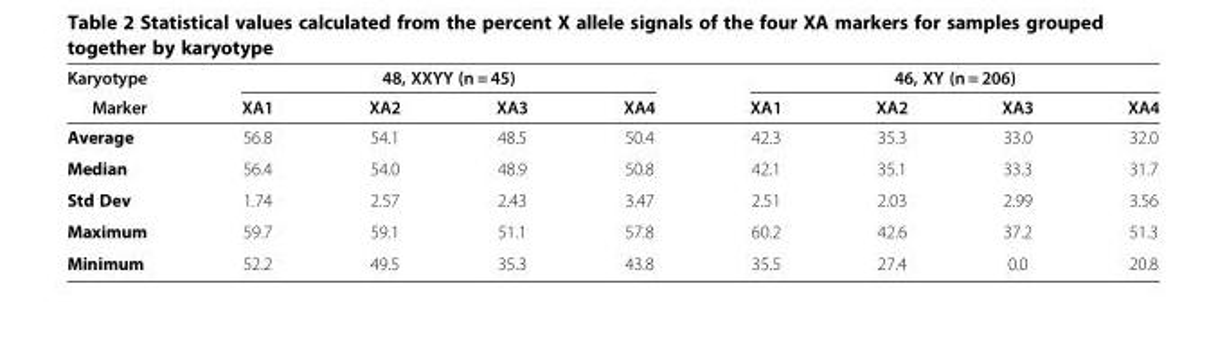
<table><thead><tr><td rowspan="2">Karyotype Marker</td><td colspan="4">48, XXYY (n = 45)</td><td colspan="4">46, XY (n = 206)</td></tr><tr><td>XA1</td><td>XA2</td><td>XA3</td><td>XA4</td><td>XA1</td><td>XA2</td><td>XA3</td><td>XA4</td></tr></thead><tbody><tr><td>Average</td><td>56.8</td><td>54.1</td><td>48.5</td><td>50.4</td><td>42.3</td><td>35.3</td><td>33.0</td><td>32.0</td></tr><tr><td>Median</td><td>56.4</td><td>54.0</td><td>48.9</td><td>50.8</td><td>42.1</td><td>35.1</td><td>33.3</td><td>31.7</td></tr><tr><td>Std Dev</td><td>1.74</td><td>2.57</td><td>2.43</td><td>3.47</td><td>2.51</td><td>2.03</td><td>2.99</td><td>3.56</td></tr><tr><td>Maximum</td><td>59.7</td><td>59.1</td><td>51.1</td><td>57.8</td><td>60.2</td><td>42.6</td><td>37.2</td><td>51.3</td></tr><tr><td>Minimum</td><td>52.2</td><td>49.5</td><td>35.3</td><td>43.8</td><td>35.5</td><td>27.4</td><td>0.0</td><td>20.8</td></tr></tbody></table>